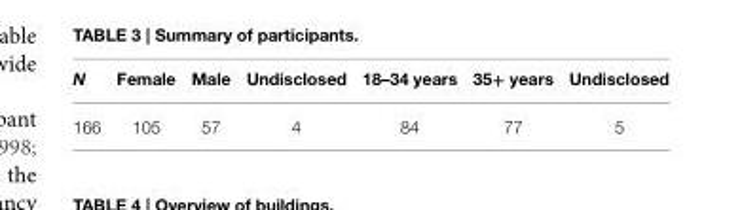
<table><thead><tr><td>N</td><td>Female</td><td>Male</td><td>Undisclosed</td><td>18–34 years</td><td>35+ years</td><td>Undisclosed</td></tr></thead><tbody><tr><td>166</td><td>105</td><td>57</td><td>4</td><td>84</td><td>77</td><td>5</td></tr></tbody></table>